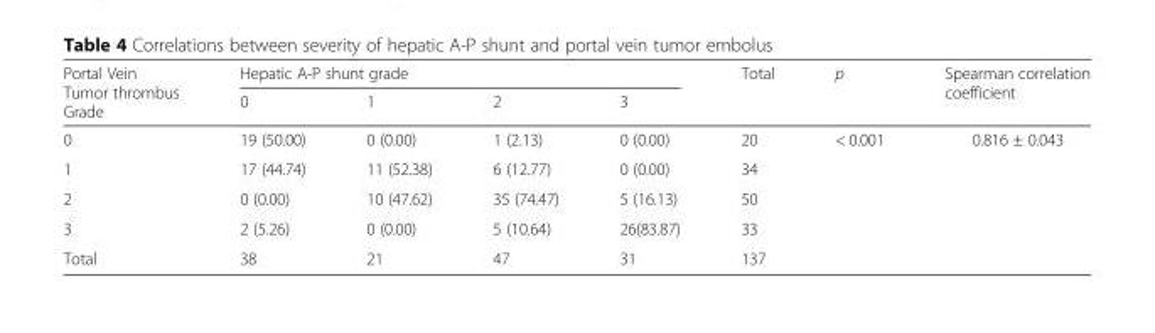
<table><thead><tr><td rowspan="2">Portal Vein Tumor thrombus Grade</td><td colspan="4">Hepatic A-P shunt grade</td><td rowspan="2">Total</td><td rowspan="2">p</td><td rowspan="2">Spearman correlation coefficient</td></tr><tr><td>0</td><td>1</td><td>2</td><td>3</td></tr></thead><tbody><tr><td>0</td><td>19 (50.00)</td><td>0 (0.00)</td><td>1 (2.13)</td><td>0 (0.00)</td><td>20</td><td rowspan="5">&lt; 0.001</td><td rowspan="5">0.816 ± 0.043</td></tr><tr><td>1</td><td>17 (44.74)</td><td>11 (52.38)</td><td>6 (12.77)</td><td>0 (0.00)</td><td>34</td></tr><tr><td>2</td><td>0 (0.00)</td><td>10 (47.62)</td><td>35 (74.47)</td><td>5 (16.13)</td><td>50</td></tr><tr><td>3</td><td>2 (5.26)</td><td>0 (0.00)</td><td>5 (10.64)</td><td>26(83.87)</td><td>33</td></tr><tr><td>Total</td><td>38</td><td>21</td><td>47</td><td>31</td><td>137</td></tr></tbody></table>